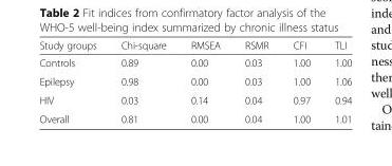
<table><thead><tr><td>Study groups</td><td>Chi-square</td><td>RMSEA</td><td>RSMR</td><td>CFI</td><td>TLI</td></tr></thead><tbody><tr><td>Controls</td><td>0.89</td><td>0.00</td><td>0.03</td><td>1.00</td><td>1.00</td></tr><tr><td>Epilepsy</td><td>0.98</td><td>0.00</td><td>0.03</td><td>1.00</td><td>1.06</td></tr><tr><td>HIV</td><td>0.03</td><td>0.14</td><td>0.04</td><td>0.97</td><td>0.94</td></tr><tr><td>Overall</td><td>0.81</td><td>0.00</td><td>0.04</td><td>1.00</td><td>1.01</td></tr></tbody></table>